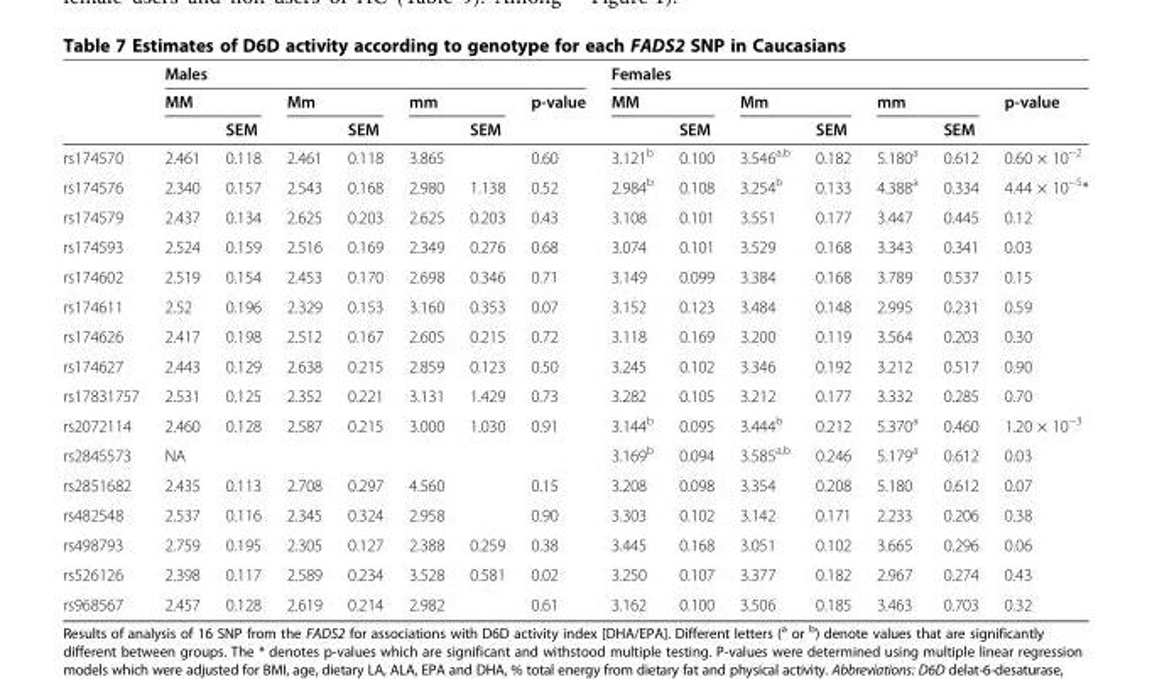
<table><thead><tr><td rowspan="3"></td><td colspan="7">Males</td><td colspan="7">Females</td></tr><tr><td colspan="2">MM</td><td colspan="2">Mm</td><td colspan="2">mm</td><td rowspan="2">p-value</td><td colspan="2">MM</td><td colspan="2">Mm</td><td colspan="2">mm</td><td rowspan="2">p-value</td></tr><tr><td></td><td>SEM</td><td></td><td>SEM</td><td></td><td>SEM</td><td></td><td>SEM</td><td></td><td>SEM</td><td></td><td>SEM</td></tr></thead><tbody><tr><td>rs174570</td><td>2.461</td><td>0.118</td><td>2.461</td><td>0.118</td><td>3.865</td><td></td><td>0.60</td><td>3.121<sup>b</sup></td><td>0.100</td><td>3.546<sup>a,b</sup></td><td>0.182</td><td>5.180<sup>a</sup></td><td>0.612</td><td>0.60 × 10<sup>−2</sup></td></tr><tr><td>rs174576</td><td>2.340</td><td>0.157</td><td>2.543</td><td>0.168</td><td>2.980</td><td>1.138</td><td>0.52</td><td>2.984<sup>b</sup></td><td>0.108</td><td>3.254<sup>b</sup></td><td>0.133</td><td>4.388<sup>a</sup></td><td>0.334</td><td>4.44 × 10<sup>−5</sup>*</td></tr><tr><td>rs174579</td><td>2.437</td><td>0.134</td><td>2.625</td><td>0.203</td><td>2.625</td><td>0.203</td><td>0.43</td><td>3.108</td><td>0.101</td><td>3.551</td><td>0.177</td><td>3.447</td><td>0.445</td><td>0.12</td></tr><tr><td>rs174593</td><td>2.524</td><td>0.159</td><td>2.516</td><td>0.169</td><td>2.349</td><td>0.276</td><td>0.68</td><td>3.074</td><td>0.101</td><td>3.529</td><td>0.168</td><td>3.343</td><td>0.341</td><td>0.03</td></tr><tr><td>rs174602</td><td>2.519</td><td>0.154</td><td>2.453</td><td>0.170</td><td>2.698</td><td>0.346</td><td>0.71</td><td>3.149</td><td>0.099</td><td>3.384</td><td>0.168</td><td>3.789</td><td>0.537</td><td>0.15</td></tr><tr><td>rs174611</td><td>2.52</td><td>0.196</td><td>2.329</td><td>0.153</td><td>3.160</td><td>0.353</td><td>0.07</td><td>3.152</td><td>0.123</td><td>3.484</td><td>0.148</td><td>2.995</td><td>0.231</td><td>0.59</td></tr><tr><td>rs174626</td><td>2.417</td><td>0.198</td><td>2.512</td><td>0.167</td><td>2.605</td><td>0.215</td><td>0.72</td><td>3.118</td><td>0.169</td><td>3.200</td><td>0.119</td><td>3.564</td><td>0.203</td><td>0.30</td></tr><tr><td>rs174627</td><td>2.443</td><td>0.129</td><td>2.638</td><td>0.215</td><td>2.859</td><td>0.123</td><td>0.50</td><td>3.245</td><td>0.102</td><td>3.346</td><td>0.192</td><td>3.212</td><td>0.517</td><td>0.90</td></tr><tr><td>rs17831757</td><td>2.531</td><td>0.125</td><td>2.352</td><td>0.221</td><td>3.131</td><td>1.429</td><td>0.73</td><td>3.282</td><td>0.105</td><td>3.212</td><td>0.177</td><td>3.332</td><td>0.285</td><td>0.70</td></tr><tr><td>rs2072114</td><td>2.460</td><td>0.128</td><td>2.587</td><td>0.215</td><td>3.000</td><td>1.030</td><td>0.91</td><td>3.144<sup>b</sup></td><td>0.095</td><td>3.444<sup>b</sup></td><td>0.212</td><td>5.370<sup>a</sup></td><td>0.460</td><td>1.20 × 10<sup>−3</sup></td></tr><tr><td>rs2845573</td><td>NA</td><td></td><td></td><td></td><td></td><td></td><td></td><td>3.169<sup>b</sup></td><td>0.094</td><td>3.585<sup>a,b</sup></td><td>0.246</td><td>5.179<sup>a</sup></td><td>0.612</td><td>0.03</td></tr><tr><td>rs2851682</td><td>2.435</td><td>0.113</td><td>2.708</td><td>0.297</td><td>4.560</td><td></td><td>0.15</td><td>3.208</td><td>0.098</td><td>3.354</td><td>0.208</td><td>5.180</td><td>0.612</td><td>0.07</td></tr><tr><td>rs482548</td><td>2.537</td><td>0.116</td><td>2.345</td><td>0.324</td><td>2.958</td><td></td><td>0.90</td><td>3.303</td><td>0.102</td><td>3.142</td><td>0.171</td><td>2.233</td><td>0.206</td><td>0.38</td></tr><tr><td>rs498793</td><td>2.759</td><td>0.195</td><td>2.305</td><td>0.127</td><td>2.388</td><td>0.259</td><td>0.38</td><td>3.445</td><td>0.168</td><td>3.051</td><td>0.102</td><td>3.665</td><td>0.296</td><td>0.06</td></tr><tr><td>rs526126</td><td>2.398</td><td>0.117</td><td>2.589</td><td>0.234</td><td>3.528</td><td>0.581</td><td>0.02</td><td>3.250</td><td>0.107</td><td>3.377</td><td>0.182</td><td>2.967</td><td>0.274</td><td>0.43</td></tr><tr><td>rs968567</td><td>2.457</td><td>0.128</td><td>2.619</td><td>0.214</td><td>2.982</td><td></td><td>0.61</td><td>3.162</td><td>0.100</td><td>3.506</td><td>0.185</td><td>3.463</td><td>0.703</td><td>0.32</td></tr></tbody></table>